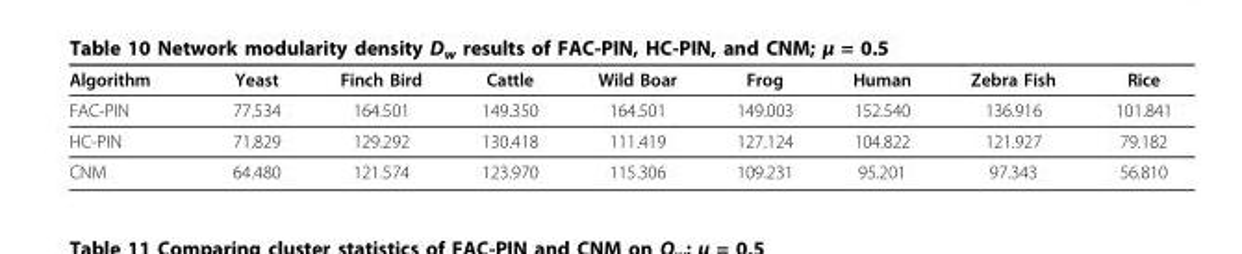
<table><thead><tr><td>Algorithm</td><td>Yeast</td><td>Finch Bird</td><td>Cattle</td><td>Wild Boar</td><td>Frog</td><td>Human</td><td>Zebra Fish</td><td>Rice</td></tr></thead><tbody><tr><td>FAC-PIN</td><td>77.534</td><td>164.501</td><td>149.350</td><td>164.501</td><td>149.003</td><td>152.540</td><td>136.916</td><td>101.841</td></tr><tr><td>HC-PIN</td><td>71.829</td><td>129.292</td><td>130.418</td><td>111.419</td><td>127.124</td><td>104.822</td><td>121.927</td><td>79.182</td></tr><tr><td>CNM</td><td>64.480</td><td>121.574</td><td>123.970</td><td>115.306</td><td>109.231</td><td>95.201</td><td>97.343</td><td>56.810</td></tr></tbody></table>